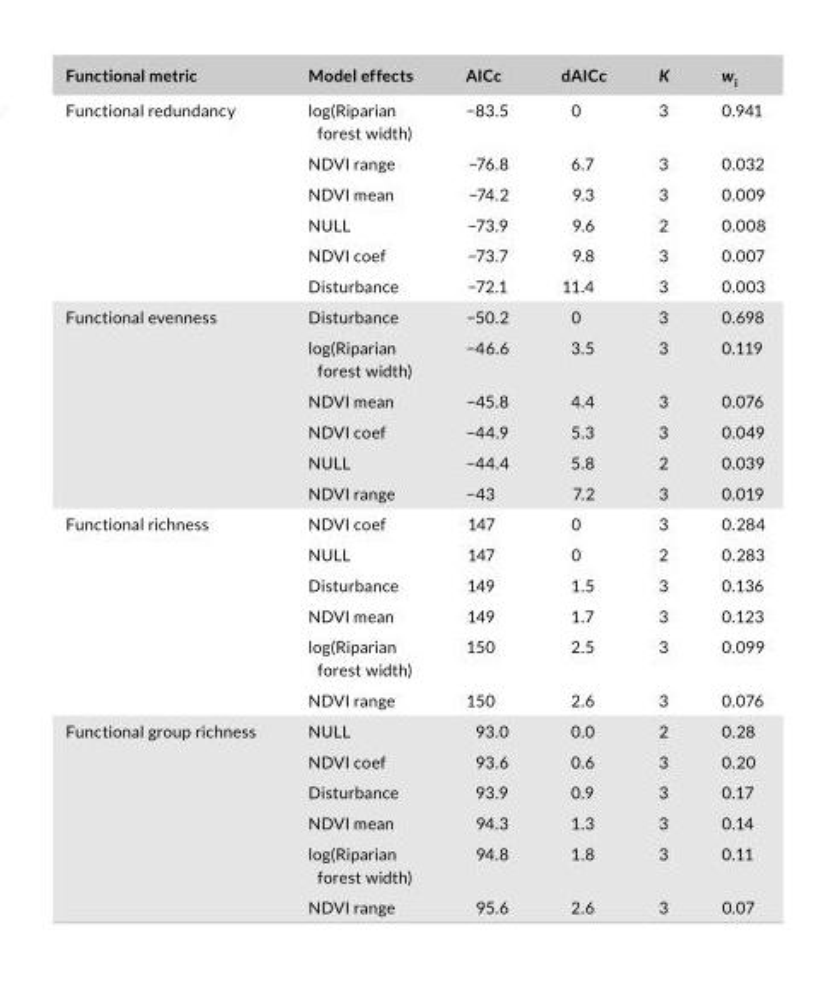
<table><thead><tr><td>Functional metric</td><td>Model effects</td><td>AICc</td><td>dAICc</td><td>K</td><td>w<sub>i</sub></td></tr></thead><tbody><tr><td rowspan="6">Functional redundancy</td><td>log(Riparian forest width)</td><td>−83.5</td><td>0</td><td>3</td><td>0.941</td></tr><tr><td>NDVI range</td><td>−76.8</td><td>6.7</td><td>3</td><td>0.032</td></tr><tr><td>NDVI mean</td><td>−74.2</td><td>9.3</td><td>3</td><td>0.009</td></tr><tr><td>NULL</td><td>−73.9</td><td>9.6</td><td>2</td><td>0.008</td></tr><tr><td>NDVI coef</td><td>−73.7</td><td>9.8</td><td>3</td><td>0.007</td></tr><tr><td>Disturbance</td><td>−72.1</td><td>11.4</td><td>3</td><td>0.003</td></tr><tr><td rowspan="6">Functional evenness</td><td>Disturbance</td><td>−50.2</td><td>0</td><td>3</td><td>0.698</td></tr><tr><td>log(Riparian forest width)</td><td>−46.6</td><td>3.5</td><td>3</td><td>0.119</td></tr><tr><td>NDVI mean</td><td>−45.8</td><td>4.4</td><td>3</td><td>0.076</td></tr><tr><td>NDVI coef</td><td>−44.9</td><td>5.3</td><td>3</td><td>0.049</td></tr><tr><td>NULL</td><td>−44.4</td><td>5.8</td><td>2</td><td>0.039</td></tr><tr><td>NDVI range</td><td>−43</td><td>7.2</td><td>3</td><td>0.019</td></tr><tr><td rowspan="6">Functional richness</td><td>NDVI coef</td><td>147</td><td>0</td><td>3</td><td>0.284</td></tr><tr><td>NULL</td><td>147</td><td>0</td><td>2</td><td>0.283</td></tr><tr><td>Disturbance</td><td>149</td><td>1.5</td><td>3</td><td>0.136</td></tr><tr><td>NDVI mean</td><td>149</td><td>1.7</td><td>3</td><td>0.123</td></tr><tr><td>log(Riparian forest width)</td><td>150</td><td>2.5</td><td>3</td><td>0.099</td></tr><tr><td>NDVI range</td><td>150</td><td>2.6</td><td>3</td><td>0.076</td></tr><tr><td rowspan="6">Functional group richness</td><td>NULL</td><td>93.0</td><td>0.0</td><td>2</td><td>0.28</td></tr><tr><td>NDVI coef</td><td>93.6</td><td>0.6</td><td>3</td><td>0.20</td></tr><tr><td>Disturbance</td><td>93.9</td><td>0.9</td><td>3</td><td>0.17</td></tr><tr><td>NDVI mean</td><td>94.3</td><td>1.3</td><td>3</td><td>0.14</td></tr><tr><td>log(Riparian forest width)</td><td>94.8</td><td>1.8</td><td>3</td><td>0.11</td></tr><tr><td>NDVI range</td><td>95.6</td><td>2.6</td><td>3</td><td>0.07</td></tr></tbody></table>